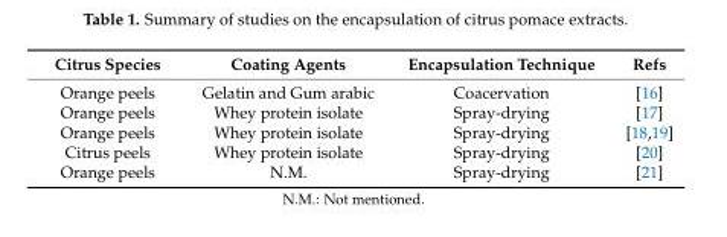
<table><thead><tr><td>Citrus Species</td><td>Coating Agents</td><td>Encapsulation Technique</td><td>Refs</td></tr></thead><tbody><tr><td>Orange peels</td><td>Gelatin and Gum arabic</td><td>Coacervation</td><td>[16]</td></tr><tr><td>Orange peels</td><td>Whey protein isolate</td><td>Spray-drying</td><td>[17]</td></tr><tr><td>Orange peels</td><td>Whey protein isolate</td><td>Spray-drying</td><td>[18,19]</td></tr><tr><td>Citrus peels</td><td>Whey protein isolate</td><td>Spray-drying</td><td>[20]</td></tr><tr><td>Orange peels</td><td>N.M.</td><td>Spray-drying</td><td>[21]</td></tr></tbody></table>